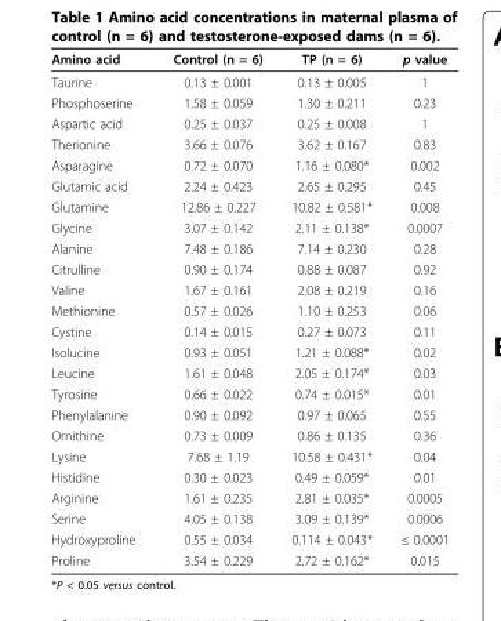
<table><thead><tr><td>Amino acid</td><td>Control (n = 6)</td><td>TP (n = 6)</td><td>p value</td></tr></thead><tbody><tr><td>Taurine</td><td>0.13 ± 0.001</td><td>0.13 ± 0.005</td><td>1</td></tr><tr><td>Phosphoserine</td><td>1.58 ± 0.059</td><td>1.30 ± 0.211</td><td>0.23</td></tr><tr><td>Aspartic acid</td><td>0.25 ± 0.037</td><td>0.25 ± 0.008</td><td>1</td></tr><tr><td>Therionine</td><td>3.66 ± 0.076</td><td>3.62 ± 0.167</td><td>0.83</td></tr><tr><td>Asparagine</td><td>0.72 ± 0.070</td><td>1.16 ± 0.080*</td><td>0.002</td></tr><tr><td>Glutamic acid</td><td>2.24 ± 0.423</td><td>2.65 ± 0.295</td><td>0.45</td></tr><tr><td>Glutamine</td><td>12.86 ± 0.227</td><td>10.82 ± 0.581*</td><td>0.008</td></tr><tr><td>Glycine</td><td>3.07 ± 0.142</td><td>2.11 ± 0.138*</td><td>0.0007</td></tr><tr><td>Alanine</td><td>7.48 ± 0.186</td><td>7.14 ± 0.230</td><td>0.28</td></tr><tr><td>Citrulline</td><td>0.90 ± 0.174</td><td>0.88 ± 0.087</td><td>0.92</td></tr><tr><td>Valine</td><td>1.67 ± 0.161</td><td>2.08 ± 0.219</td><td>0.16</td></tr><tr><td>Methionine</td><td>0.57 ± 0.026</td><td>1.10 ± 0.253</td><td>0.06</td></tr><tr><td>Cystine</td><td>0.14 ± 0.015</td><td>0.27 ± 0.073</td><td>0.11</td></tr><tr><td>Isolucine</td><td>0.93 ± 0.051</td><td>1.21 ± 0.088*</td><td>0.02</td></tr><tr><td>Leucine</td><td>1.61 ± 0.048</td><td>2.05 ± 0.174*</td><td>0.03</td></tr><tr><td>Tyrosine</td><td>0.66 ± 0.022</td><td>0.74 ± 0.015*</td><td>0.01</td></tr><tr><td>Phenylalanine</td><td>0.90 ± 0.092</td><td>0.97 ± 0.065</td><td>0.55</td></tr><tr><td>Ornithine</td><td>0.73 ± 0.009</td><td>0.86 ± 0.135</td><td>0.36</td></tr><tr><td>Lysine</td><td>7.68 ± 1.19</td><td>10.58 ± 0.431*</td><td>0.04</td></tr><tr><td>Histidine</td><td>0.30 ± 0.023</td><td>0.49 ± 0.059*</td><td>0.01</td></tr><tr><td>Arginine</td><td>1.61 ± 0.235</td><td>2.81 ± 0.035*</td><td>0.0005</td></tr><tr><td>Serine</td><td>4.05 ± 0.138</td><td>3.09 ± 0.139*</td><td>0.0006</td></tr><tr><td>Hydroxyproline</td><td>0.55 ± 0.034</td><td>0.114 ± 0.043*</td><td>≤ 0.0001</td></tr><tr><td>Proline</td><td>3.54 ± 0.229</td><td>2.72 ± 0.162*</td><td>0.015</td></tr></tbody></table>